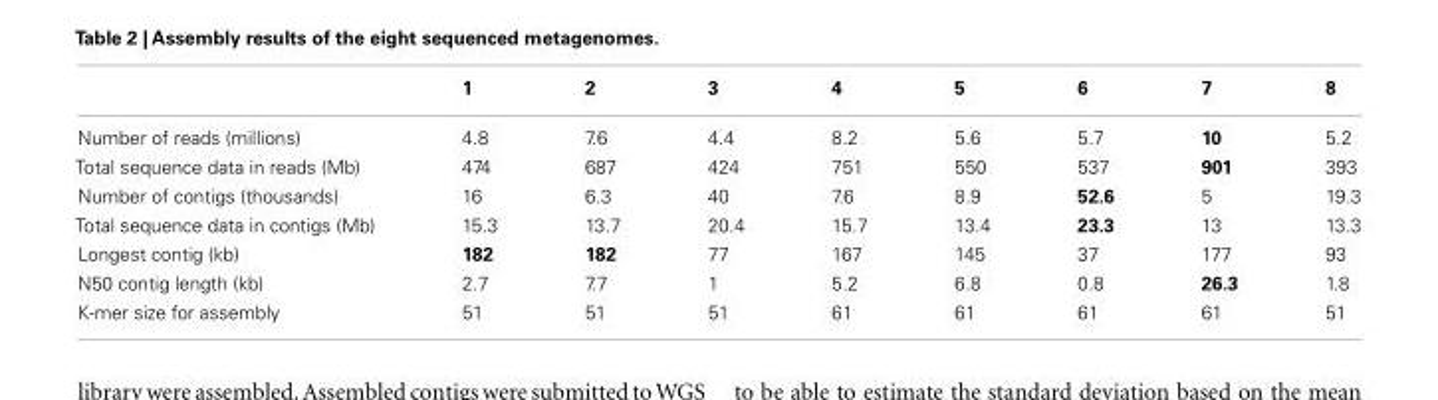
<table><thead><tr><td></td><td>1</td><td>2</td><td>3</td><td>4</td><td>5</td><td>6</td><td>7</td><td>8</td></tr></thead><tbody><tr><td>Number of reads (millions)</td><td>4.8</td><td>7.6</td><td>4.4</td><td>8.2</td><td>5.6</td><td>5.7</td><td>10</td><td>5.2</td></tr><tr><td>Total sequence data in reads (Mb)</td><td>474</td><td>687</td><td>424</td><td>751</td><td>550</td><td>537</td><td>901</td><td>393</td></tr><tr><td>Number of contigs (thousands)</td><td>16</td><td>6.3</td><td>40</td><td>7.6</td><td>8.9</td><td>52.6</td><td>5</td><td>19.3</td></tr><tr><td>Total sequence data in contigs (Mb)</td><td>15.3</td><td>13.7</td><td>20.4</td><td>15.7</td><td>13.4</td><td>23.3</td><td>13</td><td>13.3</td></tr><tr><td>Longest contig (kb)</td><td>182</td><td>182</td><td>77</td><td>167</td><td>145</td><td>37</td><td>177</td><td>93</td></tr><tr><td>N50 contig length (kb)</td><td>2.7</td><td>7.7</td><td>1</td><td>5.2</td><td>6.8</td><td>0.8</td><td>26.3</td><td>1.8</td></tr><tr><td>K-mer size for assembly</td><td>51</td><td>51</td><td>51</td><td>61</td><td>61</td><td>61</td><td>61</td><td>51</td></tr></tbody></table>